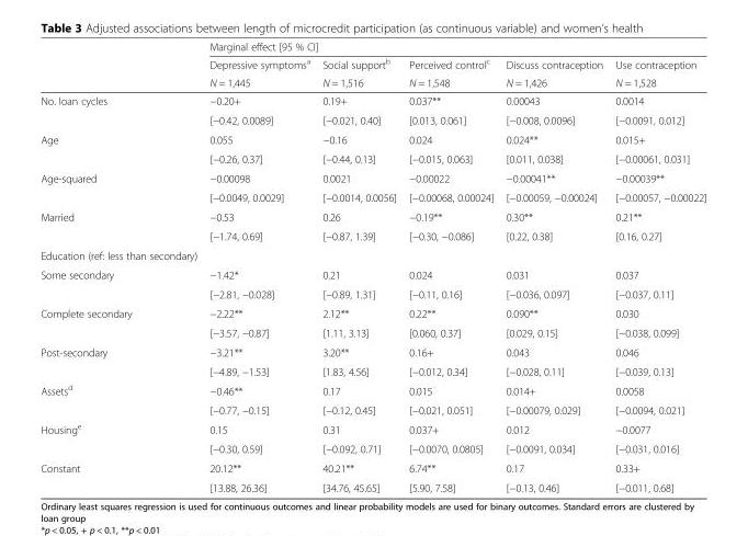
<table><thead><tr><td rowspan="3"></td><td colspan="5">Marginal effect [95 % CI]</td></tr><tr><td rowspan="2">Depressive symptoms<sup>a</sup> N = 1,445</td><td rowspan="2">Social support<sup>b</sup> N = 1,516</td><td rowspan="2">Perceived control<sup>c</sup> N = 1,548</td><td rowspan="2">Discuss contraception N = 1,426</td><td rowspan="2">Use contraception N = 1,528</td></tr><tr></tr></thead><tbody><tr><td rowspan="2">No. loan cycles</td><td>−0.20+</td><td>0.19+</td><td>0.037**</td><td>0.00043</td><td>0.0014</td></tr><tr><td>[−0.42, 0.0089]</td><td>[−0.021, 0.40]</td><td>[0.013, 0.061]</td><td>[−0.008, 0.0096]</td><td>[−0.0091, 0.012]</td></tr><tr><td rowspan="2">Age</td><td>0.055</td><td>−0.16</td><td>0.024</td><td>0.024**</td><td>0.015+</td></tr><tr><td>[−0.26, 0.37]</td><td>[−0.44, 0.13]</td><td>[−0.015, 0.063]</td><td>[0.011, 0.038]</td><td>[−0.00061, 0.031]</td></tr><tr><td rowspan="2">Age-squared</td><td>−0.00098</td><td>0.0021</td><td>−0.00022</td><td>−0.00041**</td><td>−0.00039**</td></tr><tr><td>[−0.0049, 0.0029]</td><td>[−0.0014, 0.0056]</td><td>[−0.00068, 0.00024]</td><td>[−0.00059, −0.00024]</td><td>[−0.00057, −0.00022]</td></tr><tr><td rowspan="2">Married</td><td>−0.53</td><td>0.26</td><td>−0.19**</td><td>0.30**</td><td>0.21**</td></tr><tr><td>[−1.74, 0.69]</td><td>[−0.87, 1.39]</td><td>[−0.30, −0.086]</td><td>[0.22, 0.38]</td><td>[0.16, 0.27]</td></tr><tr><td colspan="6">Education (ref: less than secondary)</td></tr><tr><td rowspan="2">Some secondary</td><td>−1.42*</td><td>0.21</td><td>0.024</td><td>0.031</td><td>0.037</td></tr><tr><td>[−2.81, −0.028]</td><td>[−0.89, 1.31]</td><td>[−0.11, 0.16]</td><td>[−0.036, 0.097]</td><td>[−0.037, 0.11]</td></tr><tr><td rowspan="2">Complete secondary</td><td>−2.22**</td><td>2.12**</td><td>0.22**</td><td>0.090**</td><td>0.030</td></tr><tr><td>[−3.57, −0.87]</td><td>[1.11, 3.13]</td><td>[0.060, 0.37]</td><td>[0.029, 0.15]</td><td>[−0.038, 0.099]</td></tr><tr><td rowspan="2">Post-secondary</td><td>−3.21**</td><td>3.20**</td><td>0.16+</td><td>0.043</td><td>0.046</td></tr><tr><td>[−4.89, −1.53]</td><td>[1.83, 4.56]</td><td>[−0.012, 0.34]</td><td>[−0.028, 0.11]</td><td>[−0.039, 0.13]</td></tr><tr><td rowspan="2">Assets<sup>d</sup></td><td>−0.46**</td><td>0.17</td><td>0.015</td><td>0.014+</td><td>0.0058</td></tr><tr><td>[−0.77, −0.15]</td><td>[−0.12, 0.45]</td><td>[−0.021, 0.051]</td><td>[−0.00079, 0.029]</td><td>[−0.0094, 0.021]</td></tr><tr><td rowspan="2">Housing<sup>e</sup></td><td>0.15</td><td>0.31</td><td>0.037+</td><td>0.012</td><td>−0.0077</td></tr><tr><td>[−0.30, 0.59]</td><td>[−0.092, 0.71]</td><td>[−0.0070, 0.0805]</td><td>[−0.0091, 0.034]</td><td>[−0.031, 0.016]</td></tr><tr><td rowspan="2">Constant</td><td>20.12**</td><td>40.21**</td><td>6.74**</td><td>0.17</td><td>0.33+</td></tr><tr><td>[13.88, 26.36]</td><td>[34.76, 45.65]</td><td>[5.90, 7.58]</td><td>[−0.13, 0.46]</td><td>[−0.011, 0.68]</td></tr></tbody></table>